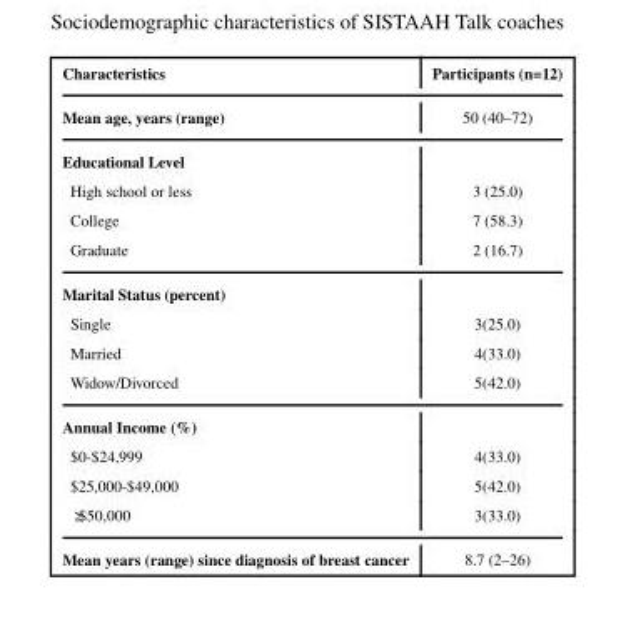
<table><thead><tr><td>Characteristics</td><td>Participants (n=12)</td></tr></thead><tbody><tr><td>Mean age, years (range)</td><td>50 (40–72)</td></tr><tr><td colspan="2">Educational Level</td></tr><tr><td>High school or less</td><td>3 (25.0)</td></tr><tr><td>College</td><td>7 (58.3)</td></tr><tr><td>Graduate</td><td>2 (16.7)</td></tr><tr><td colspan="2">Marital Status (percent)</td></tr><tr><td>Single</td><td>3(25.0)</td></tr><tr><td>Married</td><td>4(33.0)</td></tr><tr><td>Widow/Divorced</td><td>5(42.0)</td></tr><tr><td colspan="2">Annual Income (%)</td></tr><tr><td>$0-$24,999</td><td>4(33.0)</td></tr><tr><td>$25,000-$49,000</td><td>5(42.0)</td></tr><tr><td>≥$50,000</td><td>3(33.0)</td></tr><tr><td>Mean years (range) since diagnosis of breast cancer</td><td>8.7 (2–26)</td></tr></tbody></table>